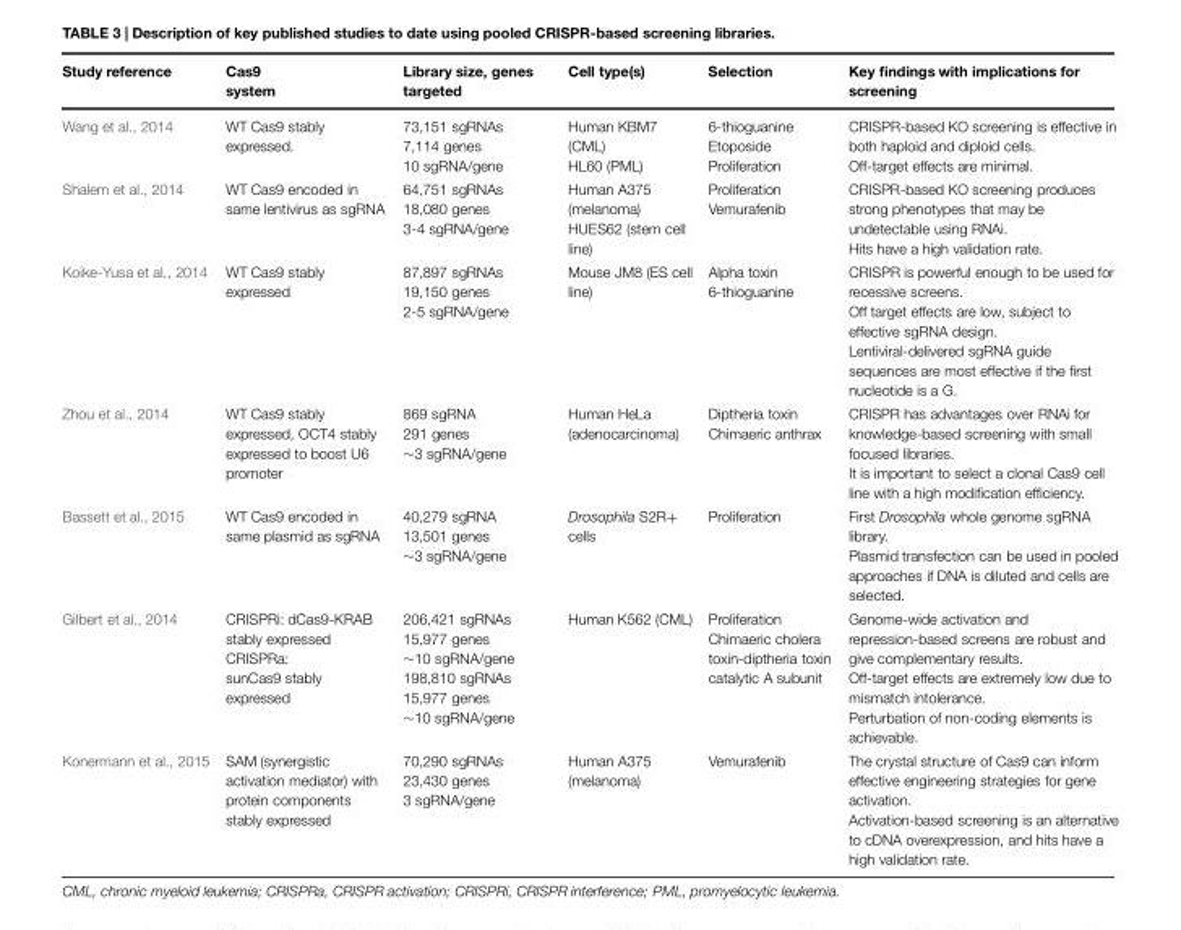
<table><thead><tr><td>Study reference</td><td>Cas9 system</td><td>Library size, genes targeted</td><td>Cell type(s)</td><td>Selection</td><td>Key findings with implications for screening</td></tr></thead><tbody><tr><td>Wang et al., 2014</td><td>WT Cas9 stably expressed.</td><td>73,151 sgRNAs 7,114 genes 10 sgRNA/gene</td><td>Human KBM7 (CML) HL60 (PML)</td><td>6-thioguanine Etoposide Proliferation</td><td>CRISPR-based KO screening is effective in both haploid and diploid cells. Off-target effects are minimal.</td></tr><tr><td>Shalem et al., 2014</td><td>WT Cas9 encoded in same lentivirus as sgRNA</td><td>64,751 sgRNAs 18,080 genes 3-4 sgRNA/gene</td><td>Human A375 (melanoma) HUES62 (stem cell line)</td><td>Proliferation Vemurafenib</td><td>CRISPR-based KO screening produces strong phenotypes that may be undetectable using RNAi. Hits have a high validation rate.</td></tr><tr><td>Koike-Yusa et al., 2014</td><td>WT Cas9 stably expressed</td><td>87,897 sgRNAs 19,150 genes 2-5 sgRNA/gene</td><td>Mouse JM8 (ES cell line)</td><td>Alpha toxin 6-thioguanine</td><td>CRISPR is powerful enough to be used for recessive screens. Off target effects are low, subject to effective sgRNA design. Lentiviral-delivered sgRNA guide sequences are most effective if the first nucleotide is a G.</td></tr><tr><td>Zhou et al., 2014</td><td>WT Cas9 stably expressed, OCT4 stably expressed to boost U6 promoter</td><td>869 sgRNA 291 genes ∼3 sgRNA/gene</td><td>Human HeLa (adenocarcinoma)</td><td>Diptheria toxin Chimaeric anthrax</td><td>CRISPR has advantages over RNAi for knowledge-based screening with small focused libraries. It is important to select a clonal Cas9 cell line with a high modification efficiency.</td></tr><tr><td>Bassett et al., 2015</td><td>WT Cas9 encoded in same plasmid as sgRNA</td><td>40,279 sgRNA 13,501 genes ∼3 sgRNA/gene</td><td>Drosophila S2R+ cells</td><td>Proliferation</td><td>First Drosophila whole genome sgRNA library. Plasmid transfection can be used in pooled approaches if DNA is diluted and cells are selected.</td></tr><tr><td>Gilbert et al., 2014</td><td>CRISPRi: dCas9-KRAB stably expressed CRISPRa: sunCas9 stably expressed</td><td>206,421 sgRNAs 15,977 genes ∼10 sgRNA/gene 198,810 sgRNAs 15,977 genes ∼10 sgRNA/gene</td><td>Human K562 (CML)</td><td>Proliferation Chimaeric cholera toxin-diptheria toxin catalytic A subunit</td><td>Genome-wide activation and repression-based screens are robust and give complementary results. Off-target effects are extremely low due to mismatch intolerance. Perturbation of non-coding elements is achievable.</td></tr><tr><td>Konermann et al., 2015</td><td>SAM (synergistic activation mediator) with protein components stably expressed</td><td>70,290 sgRNAs 23,430 genes 3 sgRNA/gene</td><td>Human A375 (melanoma)</td><td>Vemurafenib</td><td>The crystal structure of Cas9 can inform effective engineering strategies for gene activation. Activation-based screening is an alternative to cDNA overexpression, and hits have a high validation rate.</td></tr></tbody></table>